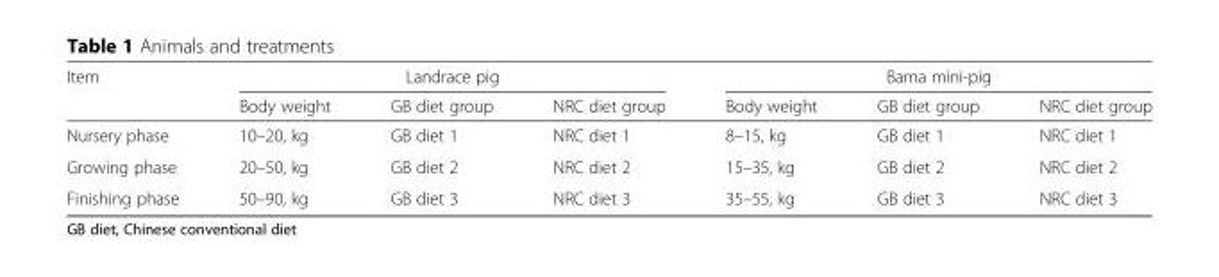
<table><thead><tr><td rowspan="2">Item</td><td colspan="3">Landrace pig</td><td colspan="3">Bama mini-pig</td></tr><tr><td>Body weight</td><td>GB diet group</td><td>NRC diet group</td><td>Body weight</td><td>GB diet group</td><td>NRC diet group</td></tr></thead><tbody><tr><td>Nursery phase</td><td>10–20, kg</td><td>GB diet 1</td><td>NRC diet 1</td><td>8–15, kg</td><td>GB diet 1</td><td>NRC diet 1</td></tr><tr><td>Growing phase</td><td>20–50, kg</td><td>GB diet 2</td><td>NRC diet 2</td><td>15–35, kg</td><td>GB diet 2</td><td>NRC diet 2</td></tr><tr><td>Finishing phase</td><td>50–90, kg</td><td>GB diet 3</td><td>NRC diet 3</td><td>35–55, kg</td><td>GB diet 3</td><td>NRC diet 3</td></tr></tbody></table>